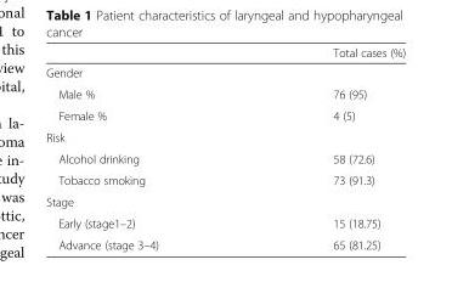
<table><thead><tr><td></td><td>Total cases (%)</td></tr></thead><tbody><tr><td colspan="2">Gender</td></tr><tr><td>Male %</td><td>76 (95)</td></tr><tr><td>Female %</td><td>4 (5)</td></tr><tr><td colspan="2">Risk</td></tr><tr><td>Alcohol drinking</td><td>58 (72.6)</td></tr><tr><td>Tobacco smoking</td><td>73 (91.3)</td></tr><tr><td colspan="2">Stage</td></tr><tr><td>Early (stage1–2)</td><td>15 (18.75)</td></tr><tr><td>Advance (stage 3–4)</td><td>65 (81.25)</td></tr></tbody></table>